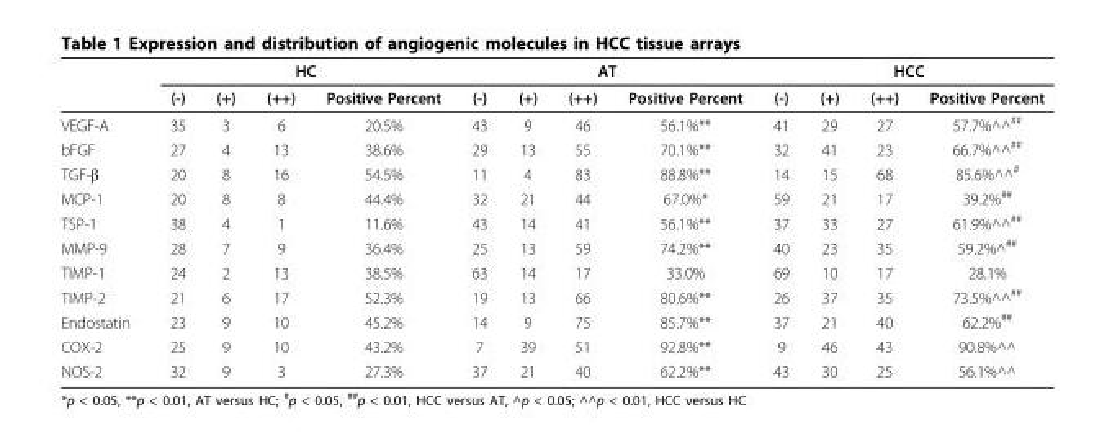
<table><thead><tr><td rowspan="2"></td><td colspan="4">HC</td><td colspan="4">AT</td><td colspan="4">HCC</td></tr><tr><td>(-)</td><td>(+)</td><td>(++)</td><td>Positive Percent</td><td>(-)</td><td>(+)</td><td>(++)</td><td>Positive Percent</td><td>(-)</td><td>(+)</td><td>(++)</td><td>Positive Percent</td></tr></thead><tbody><tr><td>VEGF-A</td><td>35</td><td>3</td><td>6</td><td>20.5%</td><td>43</td><td>9</td><td>46</td><td>56.1%**</td><td>41</td><td>29</td><td>27</td><td>57.7%^^##</td></tr><tr><td>bFGF</td><td>27</td><td>4</td><td>13</td><td>38.6%</td><td>29</td><td>13</td><td>55</td><td>70.1%**</td><td>32</td><td>41</td><td>23</td><td>66.7%^^##</td></tr><tr><td>TGF-β</td><td>20</td><td>8</td><td>16</td><td>54.5%</td><td>11</td><td>4</td><td>83</td><td>88.8%**</td><td>14</td><td>15</td><td>68</td><td>85.6%^^#</td></tr><tr><td>MCP-1</td><td>20</td><td>8</td><td>8</td><td>44.4%</td><td>32</td><td>21</td><td>44</td><td>67.0%*</td><td>59</td><td>21</td><td>17</td><td>39.2%<sup>##</sup></td></tr><tr><td>TSP-1</td><td>38</td><td>4</td><td>1</td><td>11.6%</td><td>43</td><td>14</td><td>41</td><td>56.1%**</td><td>37</td><td>33</td><td>27</td><td>61.9%^^##</td></tr><tr><td>MMP-9</td><td>28</td><td>7</td><td>9</td><td>36.4%</td><td>25</td><td>13</td><td>59</td><td>74.2%**</td><td>40</td><td>23</td><td>35</td><td>59.2%^##</td></tr><tr><td>TIMP-1</td><td>24</td><td>2</td><td>13</td><td>38.5%</td><td>63</td><td>14</td><td>17</td><td>33.0%</td><td>69</td><td>10</td><td>17</td><td>28.1%</td></tr><tr><td>TIMP-2</td><td>21</td><td>6</td><td>17</td><td>52.3%</td><td>19</td><td>13</td><td>66</td><td>80.6%**</td><td>26</td><td>37</td><td>35</td><td>73.5%^^##</td></tr><tr><td>Endostatin</td><td>23</td><td>9</td><td>10</td><td>45.2%</td><td>14</td><td>9</td><td>75</td><td>85.7%**</td><td>37</td><td>21</td><td>40</td><td>62.2%<sup>##</sup></td></tr><tr><td>COX-2</td><td>25</td><td>9</td><td>10</td><td>43.2%</td><td>7</td><td>39</td><td>51</td><td>92.8%**</td><td>9</td><td>46</td><td>43</td><td>90.8%^^</td></tr><tr><td>NOS-2</td><td>32</td><td>9</td><td>3</td><td>27.3%</td><td>37</td><td>21</td><td>40</td><td>62.2%**</td><td>43</td><td>30</td><td>25</td><td>56.1%^^</td></tr></tbody></table>